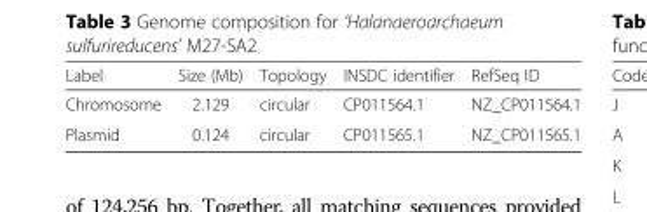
<table><thead><tr><td>Label</td><td>Size (Mb)</td><td>Topology</td><td>INSDC identifier</td><td>RefSeq ID</td></tr></thead><tbody><tr><td>Chromosome</td><td>2.129</td><td>circular</td><td>CP011564.1</td><td>NZ_CP011564.1</td></tr><tr><td>Plasmid</td><td>0.124</td><td>circular</td><td>CP011565.1</td><td>NZ_CP011565.1</td></tr></tbody></table>